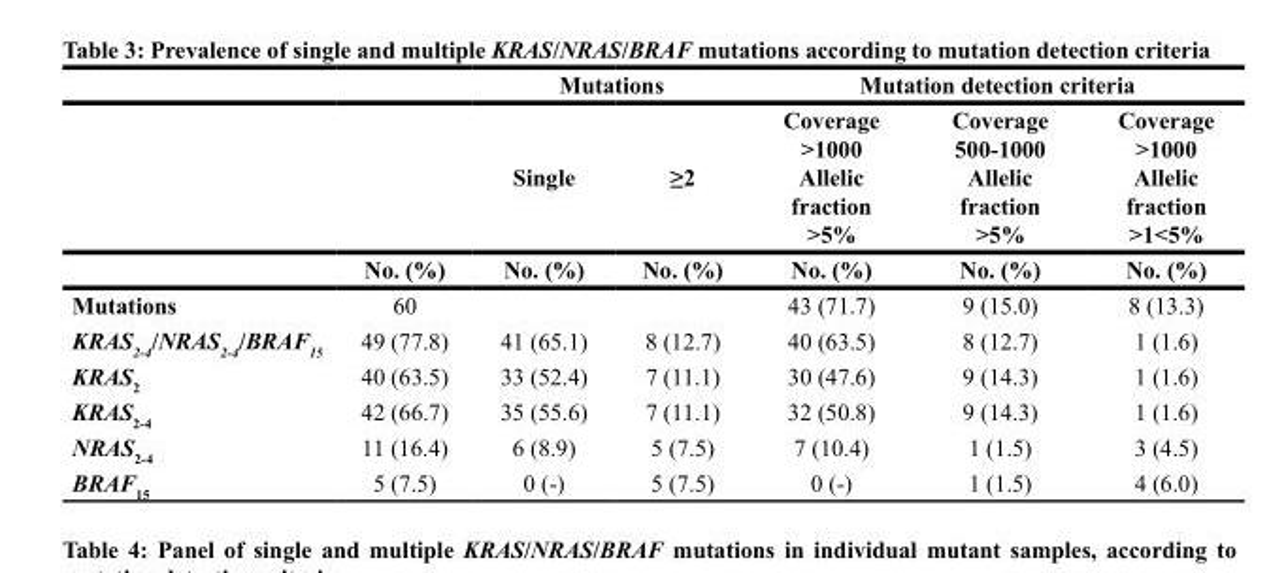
<table><thead><tr><td rowspan="3"></td><td rowspan="3">No. (%)</td><td colspan="2">Mutations</td><td colspan="3">Mutation detection criteria</td></tr><tr><td rowspan="2">Single No. (%)</td><td rowspan="2">≥2 No. (%)</td><td rowspan="2">Coverage &gt;1000 Allelic fraction &gt;5% No. (%)</td><td rowspan="2">Coverage 500-1000 Allelic fraction &gt;5% No. (%)</td><td rowspan="2">Coverage &gt;1000 Allelic fraction &gt;1&lt;5% No. (%)</td></tr><tr></tr></thead><tbody><tr><td>Mutations</td><td>60</td><td></td><td></td><td>43 (71.7)</td><td>9 (15.0)</td><td>8 (13.3)</td></tr><tr><td>KRAS<sub>2-4</sub>/NRAS<sub>2-4</sub>/BRAF<sub>15</sub></td><td>49 (77.8)</td><td>41 (65.1)</td><td>8 (12.7)</td><td>40 (63.5)</td><td>8 (12.7)</td><td>1 (1.6)</td></tr><tr><td>KRAS<sub>2</sub></td><td>40 (63.5)</td><td>33 (52.4)</td><td>7 (11.1)</td><td>30 (47.6)</td><td>9 (14.3)</td><td>1 (1.6)</td></tr><tr><td>KRAS<sub>2-4</sub></td><td>42 (66.7)</td><td>35 (55.6)</td><td>7 (11.1)</td><td>32 (50.8)</td><td>9 (14.3)</td><td>1 (1.6)</td></tr><tr><td>NRAS<sub>2-4</sub></td><td>11 (16.4)</td><td>6 (8.9)</td><td>5 (7.5)</td><td>7 (10.4)</td><td>1 (1.5)</td><td>3 (4.5)</td></tr><tr><td>BRAF<sub>15</sub></td><td>5 (7.5)</td><td>0 (-)</td><td>5 (7.5)</td><td>0 (-)</td><td>1 (1.5)</td><td>4 (6.0)</td></tr></tbody></table>